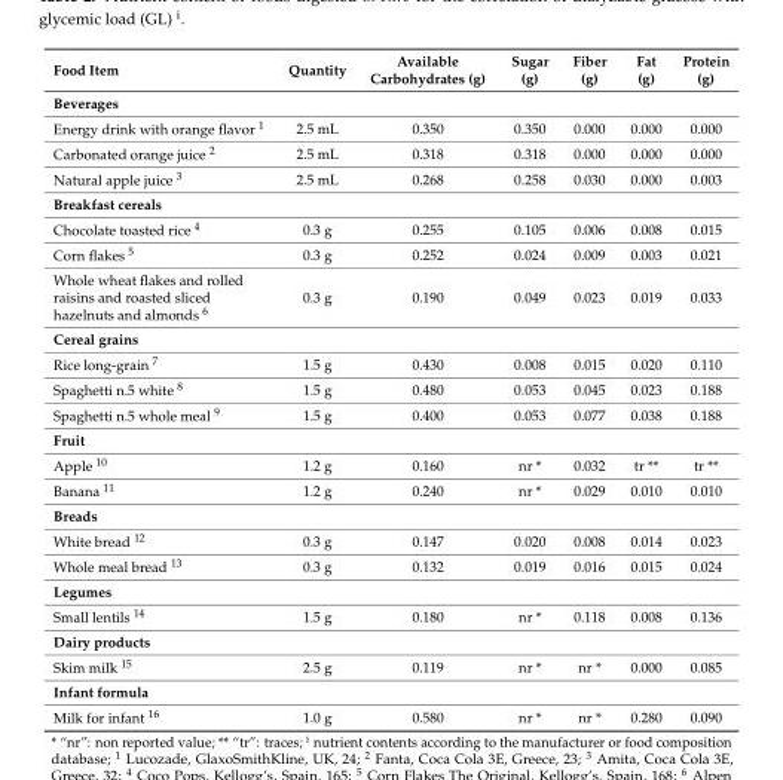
<table><thead><tr><td>Food Item</td><td>Quantity</td><td>Available Carbohydrates (g)</td><td>Sugar (g)</td><td>Fiber (g)</td><td>Fat (g)</td><td>Protein (g)</td></tr></thead><tbody><tr><td colspan="7">Beverages</td></tr><tr><td>Energy drink with orange flavor <sup>1</sup></td><td>2.5 mL</td><td>0.350</td><td>0.350</td><td>0.000</td><td>0.000</td><td>0.000</td></tr><tr><td>Carbonated orange juice <sup>2</sup></td><td>2.5 mL</td><td>0.318</td><td>0.318</td><td>0.000</td><td>0.000</td><td>0.000</td></tr><tr><td>Natural apple juice <sup>3</sup></td><td>2.5 mL</td><td>0.268</td><td>0.258</td><td>0.030</td><td>0.000</td><td>0.003</td></tr><tr><td colspan="7">Breakfast cereals</td></tr><tr><td>Chocolate toasted rice <sup>4</sup></td><td>0.3 g</td><td>0.255</td><td>0.105</td><td>0.006</td><td>0.008</td><td>0.015</td></tr><tr><td>Corn flakes <sup>5</sup></td><td>0.3 g</td><td>0.252</td><td>0.024</td><td>0.009</td><td>0.003</td><td>0.021</td></tr><tr><td>Whole wheat flakes and rolled raisins and roasted sliced hazelnuts and almonds <sup>6</sup></td><td>0.3 g</td><td>0.190</td><td>0.049</td><td>0.023</td><td>0.019</td><td>0.033</td></tr><tr><td colspan="7">Cereal grains</td></tr><tr><td>Rice long-grain <sup>7</sup></td><td>1.5 g</td><td>0.430</td><td>0.008</td><td>0.015</td><td>0.020</td><td>0.110</td></tr><tr><td>Spaghetti n.5 white <sup>8</sup></td><td>1.5 g</td><td>0.480</td><td>0.053</td><td>0.045</td><td>0.023</td><td>0.188</td></tr><tr><td>Spaghetti n.5 whole meal <sup>9</sup></td><td>1.5 g</td><td>0.400</td><td>0.053</td><td>0.077</td><td>0.038</td><td>0.188</td></tr><tr><td colspan="7">Fruit</td></tr><tr><td>Apple <sup>10</sup></td><td>1.2 g</td><td>0.160</td><td>nr *</td><td>0.032</td><td>tr **</td><td>tr **</td></tr><tr><td>Banana <sup>11</sup></td><td>1.2 g</td><td>0.240</td><td>nr *</td><td>0.029</td><td>0.010</td><td>0.010</td></tr><tr><td colspan="7">Breads</td></tr><tr><td>White bread <sup>12</sup></td><td>0.3 g</td><td>0.147</td><td>0.020</td><td>0.008</td><td>0.014</td><td>0.023</td></tr><tr><td>Whole meal bread <sup>13</sup></td><td>0.3 g</td><td>0.132</td><td>0.019</td><td>0.016</td><td>0.015</td><td>0.024</td></tr><tr><td colspan="7">Legumes</td></tr><tr><td>Small lentils <sup>14</sup></td><td>1.5 g</td><td>0.180</td><td>nr *</td><td>0.118</td><td>0.008</td><td>0.136</td></tr><tr><td colspan="7">Dairy products</td></tr><tr><td>Skim milk <sup>15</sup></td><td>2.5 g</td><td>0.119</td><td>nr *</td><td>nr *</td><td>0.000</td><td>0.085</td></tr><tr><td colspan="7">Infant formula</td></tr><tr><td>Milk for infant <sup>16</sup></td><td>1.0 g</td><td>0.580</td><td>nr *</td><td>nr *</td><td>0.280</td><td>0.090</td></tr></tbody></table>